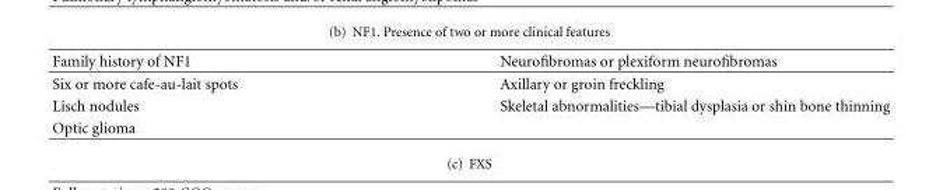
<table><thead><tr><td>Family history of NF1</td><td>Neurofibromas or plexiform neurofibromas</td></tr></thead><tbody><tr><td>Six or more cafe-au-lait spots</td><td>Axillary or groin freckling</td></tr><tr><td>Lisch nodules</td><td>Skeletal abnormalities—tibial dysplasia or shin bone thinning</td></tr><tr><td>Optic glioma</td><td></td></tr></tbody></table>